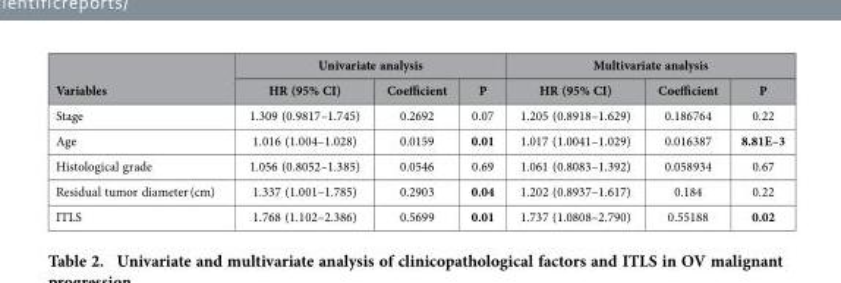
<table><thead><tr><td rowspan="2">Variables</td><td colspan="3">Univariate analysis</td><td colspan="3">Multivariate analysis</td></tr><tr><td>HR (95% CI)</td><td>Coefficient</td><td>P</td><td>HR (95% CI)</td><td>Coefficient</td><td>P</td></tr></thead><tbody><tr><td>Stage</td><td>1.309 (0.9817–1.745)</td><td>0.2692</td><td>0.07</td><td>1.205 (0.8918–1.629)</td><td>0.186764</td><td>0.22</td></tr><tr><td>Age</td><td>1.016 (1.004–1.028)</td><td>0.0159</td><td>0.01</td><td>1.017 (1.0041–1.029)</td><td>0.016387</td><td>8.81E–3</td></tr><tr><td>Histological grade</td><td>1.056 (0.8052–1.385)</td><td>0.0546</td><td>0.69</td><td>1.061 (0.8083–1.392)</td><td>0.058934</td><td>0.67</td></tr><tr><td>Residual tumor diameter (cm)</td><td>1.337 (1.001–1.785)</td><td>0.2903</td><td>0.04</td><td>1.202 (0.8937–1.617)</td><td>0.184</td><td>0.22</td></tr><tr><td>ITLS</td><td>1.768 (1.102–2.386)</td><td>0.5699</td><td>0.01</td><td>1.737 (1.0808–2.790)</td><td>0.55188</td><td>0.02</td></tr></tbody></table>